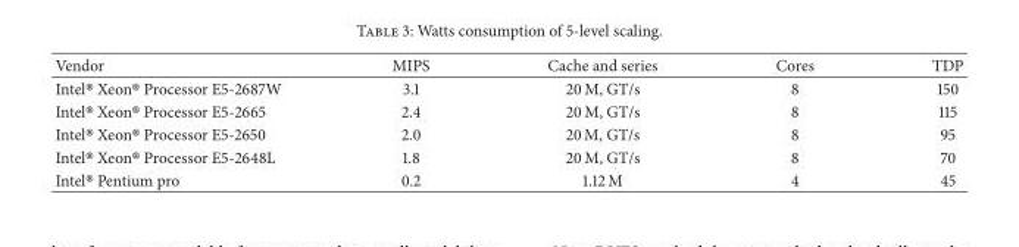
<table><thead><tr><td>Vendor</td><td>MIPS</td><td>Cache and series</td><td>Cores</td><td>TDP</td></tr></thead><tbody><tr><td>Intel® Xeon® Processor E5-2687W</td><td>3.1</td><td>20 M, GT/s</td><td>8</td><td>150</td></tr><tr><td>Intel® Xeon® Processor E5-2665</td><td>2.4</td><td>20 M, GT/s</td><td>8</td><td>115</td></tr><tr><td>Intel® Xeon® Processor E5-2650</td><td>2.0</td><td>20 M, GT/s</td><td>8</td><td>95</td></tr><tr><td>Intel® Xeon® Processor E5-2648L</td><td>1.8</td><td>20 M, GT/s</td><td>8</td><td>70</td></tr><tr><td>Intel® Pentium pro</td><td>0.2</td><td>1.12 M</td><td>4</td><td>45</td></tr></tbody></table>